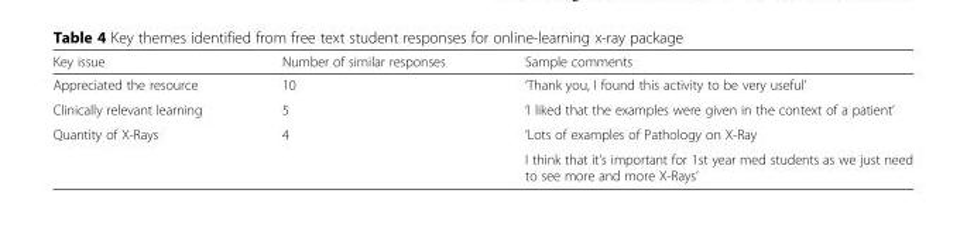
<table><thead><tr><td>Key issue</td><td>Number of similar responses</td><td>Sample comments</td></tr></thead><tbody><tr><td>Appreciated the resource</td><td>10</td><td>‘Thank you, I found this activity to be very useful’</td></tr><tr><td>Clinically relevant learning</td><td>5</td><td>‘I liked that the examples were given in the context of a patient’</td></tr><tr><td rowspan="2">Quantity of X-Rays</td><td rowspan="2">4</td><td>‘Lots of examples of Pathology on X-Ray</td></tr><tr><td>I think that it’s important for 1st year med students as we just need to see more and more X-Rays’</td></tr></tbody></table>